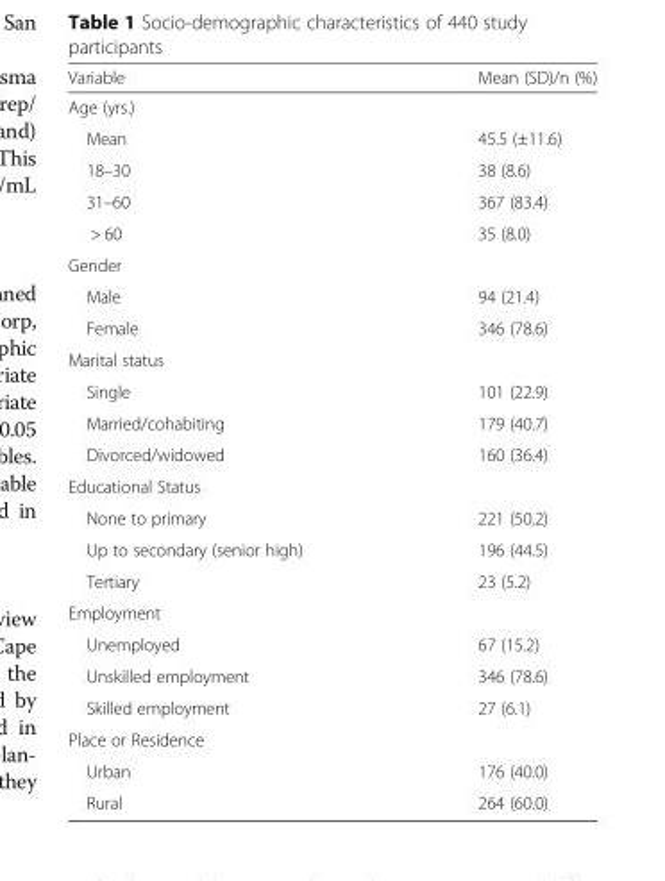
<table><thead><tr><td>Variable</td><td>Mean (SD)/n (%)</td></tr></thead><tbody><tr><td colspan="2">Age (yrs.)</td></tr><tr><td>Mean</td><td>45.5 (±11.6)</td></tr><tr><td>18–30</td><td>38 (8.6)</td></tr><tr><td>31–60</td><td>367 (83.4)</td></tr><tr><td>&gt; 60</td><td>35 (8.0)</td></tr><tr><td colspan="2">Gender</td></tr><tr><td>Male</td><td>94 (21.4)</td></tr><tr><td>Female</td><td>346 (78.6)</td></tr><tr><td colspan="2">Marital status</td></tr><tr><td>Single</td><td>101 (22.9)</td></tr><tr><td>Married/cohabiting</td><td>179 (40.7)</td></tr><tr><td>Divorced/widowed</td><td>160 (36.4)</td></tr><tr><td colspan="2">Educational Status</td></tr><tr><td>None to primary</td><td>221 (50.2)</td></tr><tr><td>Up to secondary (senior high)</td><td>196 (44.5)</td></tr><tr><td>Tertiary</td><td>23 (5.2)</td></tr><tr><td colspan="2">Employment</td></tr><tr><td>Unemployed</td><td>67 (15.2)</td></tr><tr><td>Unskilled employment</td><td>346 (78.6)</td></tr><tr><td>Skilled employment</td><td>27 (6.1)</td></tr><tr><td colspan="2">Place or Residence</td></tr><tr><td>Urban</td><td>176 (40.0)</td></tr><tr><td>Rural</td><td>264 (60.0)</td></tr></tbody></table>